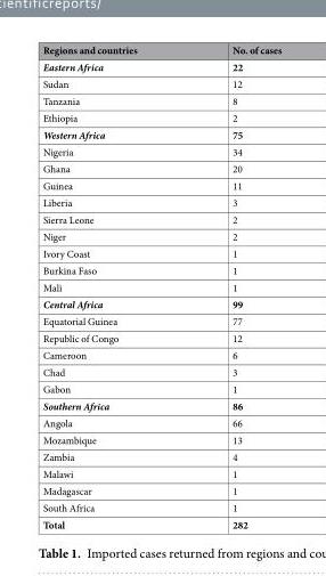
<table><thead><tr><td>Regions and countries</td><td>No. of cases</td></tr></thead><tbody><tr><td>Eastern Africa</td><td>22</td></tr><tr><td>Sudan</td><td>12</td></tr><tr><td>Tanzania</td><td>8</td></tr><tr><td>Ethiopia</td><td>2</td></tr><tr><td>Western Africa</td><td>75</td></tr><tr><td>Nigeria</td><td>34</td></tr><tr><td>Ghana</td><td>20</td></tr><tr><td>Guinea</td><td>11</td></tr><tr><td>Liberia</td><td>3</td></tr><tr><td>Sierra Leone</td><td>2</td></tr><tr><td>Niger</td><td>2</td></tr><tr><td>Ivory Coast</td><td>1</td></tr><tr><td>Burkina Faso</td><td>1</td></tr><tr><td>Mali</td><td>1</td></tr><tr><td>Central Africa</td><td>99</td></tr><tr><td>Equatorial Guinea</td><td>77</td></tr><tr><td>Republic of Congo</td><td>12</td></tr><tr><td>Cameroon</td><td>6</td></tr><tr><td>Chad</td><td>3</td></tr><tr><td>Gabon</td><td>1</td></tr><tr><td>Southern Africa</td><td>86</td></tr><tr><td>Angola</td><td>66</td></tr><tr><td>Mozambique</td><td>13</td></tr><tr><td>Zambia</td><td>4</td></tr><tr><td>Malawi</td><td>1</td></tr><tr><td>Madagascar</td><td>1</td></tr><tr><td>South Africa</td><td>1</td></tr><tr><td>Total</td><td>282</td></tr></tbody></table>